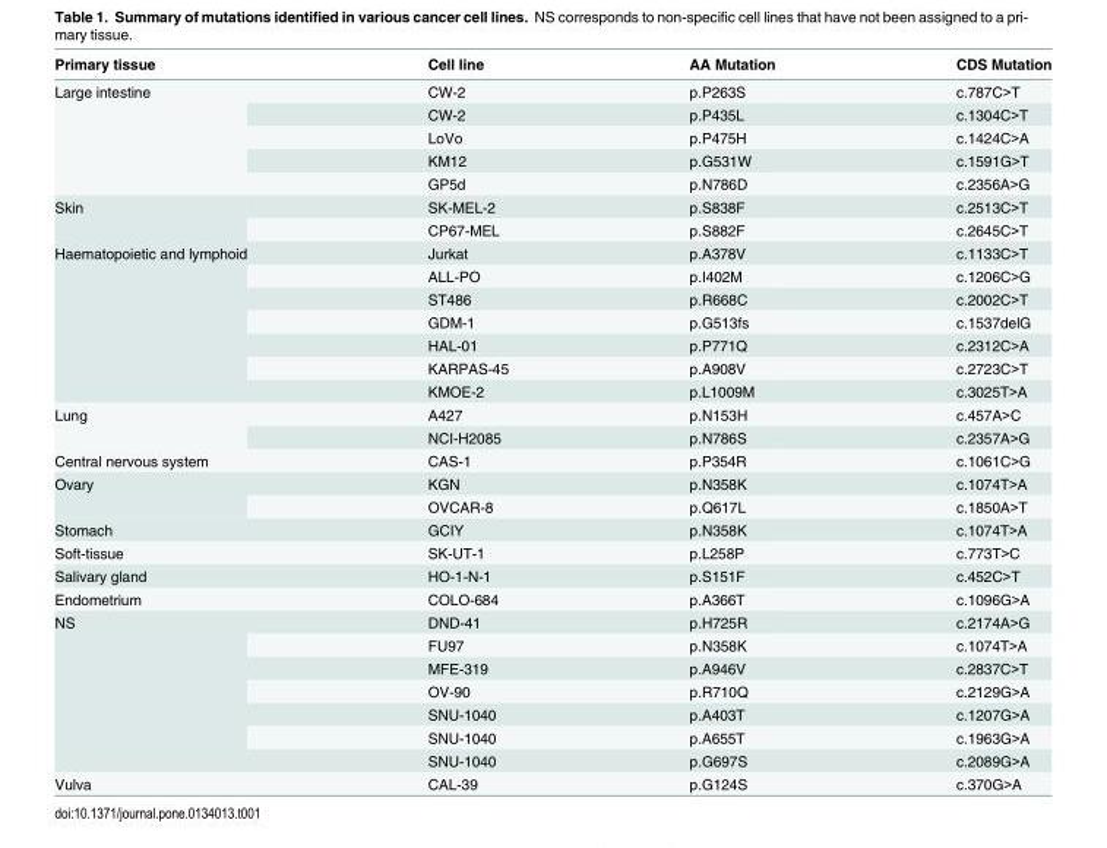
<table><thead><tr><td>Primary tissue</td><td>Cell line</td><td>AA Mutation</td><td>CDS Mutation</td></tr></thead><tbody><tr><td rowspan="5">Large intestine</td><td>CW-2</td><td>p.P263S</td><td>c.787C&gt;T</td></tr><tr><td>CW-2</td><td>p.P435L</td><td>c.1304C&gt;T</td></tr><tr><td>LoVo</td><td>p.P475H</td><td>c.1424C&gt;A</td></tr><tr><td>KM12</td><td>p.G531W</td><td>c.1591G&gt;T</td></tr><tr><td>GP5d</td><td>p.N786D</td><td>c.2356A&gt;G</td></tr><tr><td rowspan="2">Skin</td><td>SK-MEL-2</td><td>p.S838F</td><td>c.2513C&gt;T</td></tr><tr><td>CP67-MEL</td><td>p.S882F</td><td>c.2645C&gt;T</td></tr><tr><td rowspan="7">Haematopoietic and lymphoid</td><td>Jurkat</td><td>p.A378V</td><td>c.1133C&gt;T</td></tr><tr><td>ALL-PO</td><td>p.I402M</td><td>c.1206C&gt;G</td></tr><tr><td>ST486</td><td>p.R668C</td><td>c.2002C&gt;T</td></tr><tr><td>GDM-1</td><td>p.G513fs</td><td>c.1537delG</td></tr><tr><td>HAL-01</td><td>p.P771Q</td><td>c.2312C&gt;A</td></tr><tr><td>KARPAS-45</td><td>p.A908V</td><td>c.2723C&gt;T</td></tr><tr><td>KMOE-2</td><td>p.L1009M</td><td>c.3025T&gt;A</td></tr><tr><td rowspan="2">Lung</td><td>A427</td><td>p.N153H</td><td>c.457A&gt;C</td></tr><tr><td>NCI-H2085</td><td>p.N786S</td><td>c.2357A&gt;G</td></tr><tr><td>Central nervous system</td><td>CAS-1</td><td>p.P354R</td><td>c.1061C&gt;G</td></tr><tr><td rowspan="2">Ovary</td><td>KGN</td><td>p.N358K</td><td>c.1074T&gt;A</td></tr><tr><td>OVCAR-8</td><td>p.Q617L</td><td>c.1850A&gt;T</td></tr><tr><td>Stomach</td><td>GCIY</td><td>p.N358K</td><td>c.1074T&gt;A</td></tr><tr><td>Soft-tissue</td><td>SK-UT-1</td><td>p.L258P</td><td>c.773T&gt;C</td></tr><tr><td>Salivary gland</td><td>HO-1-N-1</td><td>p.S151F</td><td>c.452C&gt;T</td></tr><tr><td>Endometrium</td><td>COLO-684</td><td>p.A366T</td><td>c.1096G&gt;A</td></tr><tr><td rowspan="7">NS</td><td>DND-41</td><td>p.H725R</td><td>c.2174A&gt;G</td></tr><tr><td>FU97</td><td>p.N358K</td><td>c.1074T&gt;A</td></tr><tr><td>MFE-319</td><td>p.A946V</td><td>c.2837C&gt;T</td></tr><tr><td>OV-90</td><td>p.R710Q</td><td>c.2129G&gt;A</td></tr><tr><td>SNU-1040</td><td>p.A403T</td><td>c.1207G&gt;A</td></tr><tr><td>SNU-1040</td><td>p.A655T</td><td>c.1963G&gt;A</td></tr><tr><td>SNU-1040</td><td>p.G697S</td><td>c.2089G&gt;A</td></tr><tr><td>Vulva</td><td>CAL-39</td><td>p.G124S</td><td>c.370G&gt;A</td></tr></tbody></table>